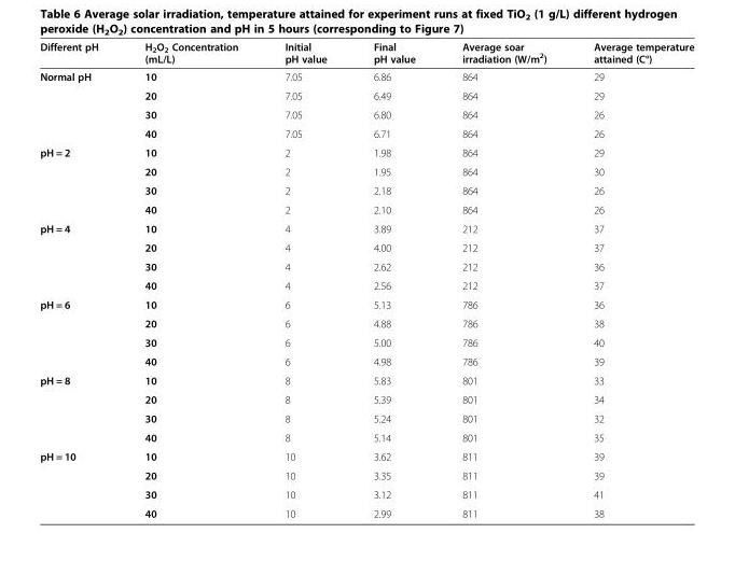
<table><thead><tr><td>Different pH</td><td>H<sub>2</sub>O<sub>2</sub> Concentration (mL/L)</td><td>Initial pH value</td><td>Final pH value</td><td>Average soar irradiation (W/m<sup>2</sup>)</td><td>Average temperature attained (C°)</td></tr></thead><tbody><tr><td rowspan="4">Normal pH</td><td>10</td><td>7.05</td><td>6.86</td><td>864</td><td>29</td></tr><tr><td>20</td><td>7.05</td><td>6.49</td><td>864</td><td>29</td></tr><tr><td>30</td><td>7.05</td><td>6.80</td><td>864</td><td>26</td></tr><tr><td>40</td><td>7.05</td><td>6.71</td><td>864</td><td>26</td></tr><tr><td rowspan="4">pH = 2</td><td>10</td><td>2</td><td>1.98</td><td>864</td><td>29</td></tr><tr><td>20</td><td>2</td><td>1.95</td><td>864</td><td>30</td></tr><tr><td>30</td><td>2</td><td>2.18</td><td>864</td><td>26</td></tr><tr><td>40</td><td>2</td><td>2.10</td><td>864</td><td>26</td></tr><tr><td rowspan="4">pH = 4</td><td>10</td><td>4</td><td>3.89</td><td>212</td><td>37</td></tr><tr><td>20</td><td>4</td><td>4.00</td><td>212</td><td>37</td></tr><tr><td>30</td><td>4</td><td>2.62</td><td>212</td><td>36</td></tr><tr><td>40</td><td>4</td><td>2.56</td><td>212</td><td>37</td></tr><tr><td rowspan="4">pH = 6</td><td>10</td><td>6</td><td>5.13</td><td>786</td><td>36</td></tr><tr><td>20</td><td>6</td><td>4.88</td><td>786</td><td>38</td></tr><tr><td>30</td><td>6</td><td>5.00</td><td>786</td><td>40</td></tr><tr><td>40</td><td>6</td><td>4.98</td><td>786</td><td>39</td></tr><tr><td rowspan="4">pH = 8</td><td>10</td><td>8</td><td>5.83</td><td>801</td><td>33</td></tr><tr><td>20</td><td>8</td><td>5.39</td><td>801</td><td>34</td></tr><tr><td>30</td><td>8</td><td>5.24</td><td>801</td><td>32</td></tr><tr><td>40</td><td>8</td><td>5.14</td><td>801</td><td>35</td></tr><tr><td rowspan="4">pH = 10</td><td>10</td><td>10</td><td>3.62</td><td>811</td><td>39</td></tr><tr><td>20</td><td>10</td><td>3.35</td><td>811</td><td>39</td></tr><tr><td>30</td><td>10</td><td>3.12</td><td>811</td><td>41</td></tr><tr><td>40</td><td>10</td><td>2.99</td><td>811</td><td>38</td></tr></tbody></table>